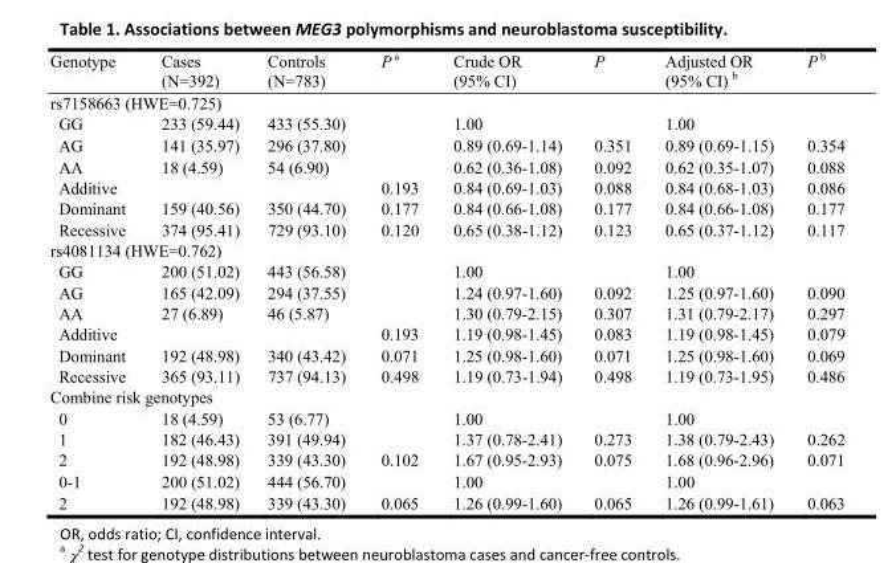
<table><tbody><tr><td>Genotype</td><td>Cases (N=392)</td><td>Controls (N=783)</td><td>P <sup>a</sup></td><td>Crude OR (95% CI)</td><td>P</td><td>Adjusted OR (95% CI) <sup>b</sup></td><td>P <sup>b</sup></td></tr><tr><td colspan="8">rs7158663 (HWE=0.725)</td></tr><tr><td>GG</td><td>233 (59.44)</td><td>433 (55.30)</td><td></td><td>1.00</td><td></td><td>1.00</td><td></td></tr><tr><td>AG</td><td>141 (35.97)</td><td>296 (37.80)</td><td></td><td>0.89 (0.69-1.14)</td><td>0.351</td><td>0.89 (0.69-1.15)</td><td>0.354</td></tr><tr><td>AA</td><td>18 (4.59)</td><td>54 (6.90)</td><td></td><td>0.62 (0.36-1.08)</td><td>0.092</td><td>0.62 (0.35-1.07)</td><td>0.088</td></tr><tr><td>Additive</td><td></td><td></td><td>0.193</td><td>0.84 (0.69-1.03)</td><td>0.088</td><td>0.84 (0.68-1.03)</td><td>0.086</td></tr><tr><td>Dominant</td><td>159 (40.56)</td><td>350 (44.70)</td><td>0.177</td><td>0.84 (0.66-1.08)</td><td>0.177</td><td>0.84 (0.66-1.08)</td><td>0.177</td></tr><tr><td>Recessive</td><td>374 (95.41)</td><td>729 (93.10)</td><td>0.120</td><td>0.65 (0.38-1.12)</td><td>0.123</td><td>0.65 (0.37-1.12)</td><td>0.117</td></tr><tr><td colspan="8">rs4081134 (HWE=0.762)</td></tr><tr><td>GG</td><td>200 (51.02)</td><td>443 (56.58)</td><td></td><td>1.00</td><td></td><td>1.00</td><td></td></tr><tr><td>AG</td><td>165 (42.09)</td><td>294 (37.55)</td><td></td><td>1.24 (0.97-1.60)</td><td>0.092</td><td>1.25 (0.97-1.60)</td><td>0.090</td></tr><tr><td>AA</td><td>27 (6.89)</td><td>46 (5.87)</td><td></td><td>1.30 (0.79-2.15)</td><td>0.307</td><td>1.31 (0.79-2.17)</td><td>0.297</td></tr><tr><td>Additive</td><td></td><td></td><td>0.193</td><td>1.19 (0.98-1.45)</td><td>0.083</td><td>1.19 (0.98-1.45)</td><td>0.079</td></tr><tr><td>Dominant</td><td>192 (48.98)</td><td>340 (43.42)</td><td>0.071</td><td>1.25 (0.98-1.60)</td><td>0.071</td><td>1.25 (0.98-1.60)</td><td>0.069</td></tr><tr><td>Recessive</td><td>365 (93.11)</td><td>737 (94.13)</td><td>0.498</td><td>1.19 (0.73-1.94)</td><td>0.498</td><td>1.19 (0.73-1.95)</td><td>0.486</td></tr><tr><td colspan="8">Combine risk genotypes</td></tr><tr><td>0</td><td>18 (4.59)</td><td>53 (6.77)</td><td></td><td>1.00</td><td></td><td>1.00</td><td></td></tr><tr><td>1</td><td>182 (46.43)</td><td>391 (49.94)</td><td></td><td>1.37 (0.78-2.41)</td><td>0.273</td><td>1.38 (0.79-2.43)</td><td>0.262</td></tr><tr><td>2</td><td>192 (48.98)</td><td>339 (43.30)</td><td>0.102</td><td>1.67 (0.95-2.93)</td><td>0.075</td><td>1.68 (0.96-2.96)</td><td>0.071</td></tr><tr><td>0-1</td><td>200 (51.02)</td><td>444 (56.70)</td><td></td><td>1.00</td><td></td><td>1.00</td><td></td></tr><tr><td>2</td><td>192 (48.98)</td><td>339 (43.30)</td><td>0.065</td><td>1.26 (0.99-1.60)</td><td>0.065</td><td>1.26 (0.99-1.61)</td><td>0.063</td></tr></tbody></table>